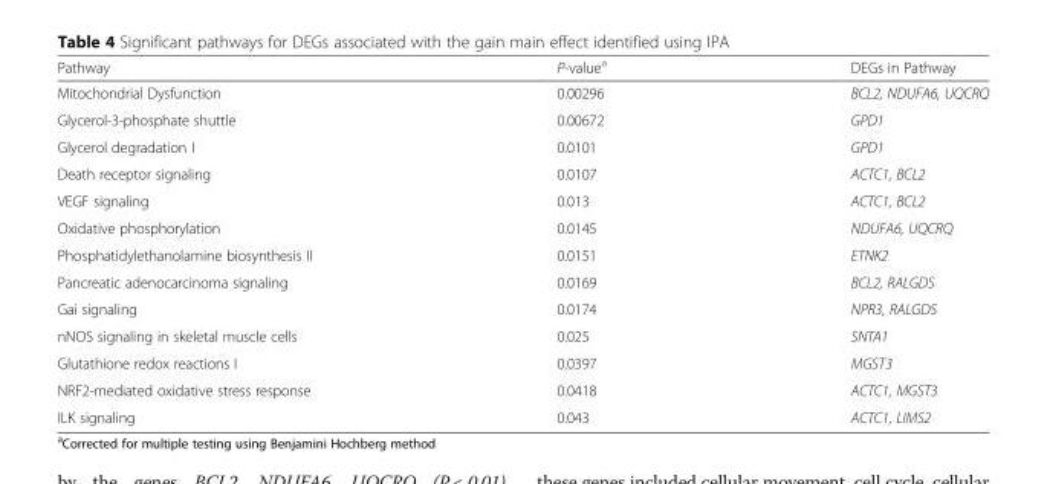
<table><thead><tr><td>Pathway</td><td>P-value<sup>a</sup></td><td>DEGs in Pathway</td></tr></thead><tbody><tr><td>Mitochondrial Dysfunction</td><td>0.00296</td><td>BCL2, NDUFA6, UQCRQ</td></tr><tr><td>Glycerol-3-phosphate shuttle</td><td>0.00672</td><td>GPD1</td></tr><tr><td>Glycerol degradation I</td><td>0.0101</td><td>GPD1</td></tr><tr><td>Death receptor signaling</td><td>0.0107</td><td>ACTC1, BCL2</td></tr><tr><td>VEGF signaling</td><td>0.013</td><td>ACTC1, BCL2</td></tr><tr><td>Oxidative phosphorylation</td><td>0.0145</td><td>NDUFA6, UQCRQ</td></tr><tr><td>Phosphatidylethanolamine biosynthesis II</td><td>0.0151</td><td>ETNK2</td></tr><tr><td>Pancreatic adenocarcinoma signaling</td><td>0.0169</td><td>BCL2, RALGDS</td></tr><tr><td>Gai signaling</td><td>0.0174</td><td>NPR3, RALGDS</td></tr><tr><td>nNOS signaling in skeletal muscle cells</td><td>0.025</td><td>SNTA1</td></tr><tr><td>Glutathione redox reactions I</td><td>0.0397</td><td>MGST3</td></tr><tr><td>NRF2-mediated oxidative stress response</td><td>0.0418</td><td>ACTC1, MGST3</td></tr><tr><td>ILK signaling</td><td>0.043</td><td>ACTC1, LIMS2</td></tr></tbody></table>